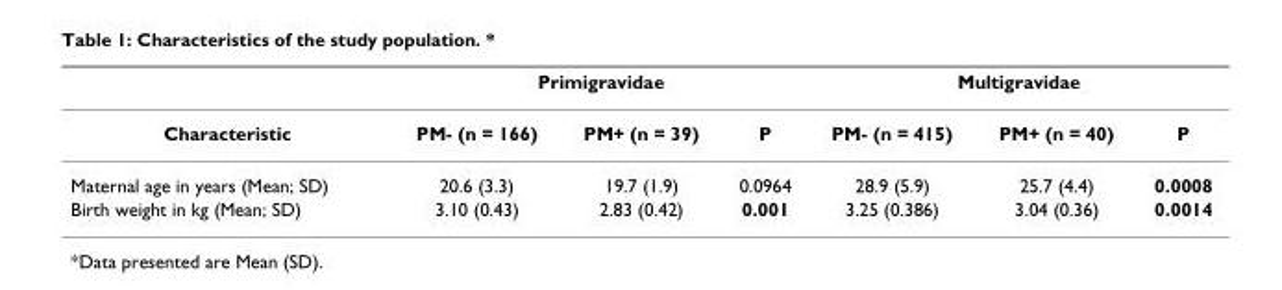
<table><thead><tr><td rowspan="2">Characteristic</td><td colspan="3">Primigravidae</td><td colspan="3">Multigravidae</td></tr><tr><td>PM- (n = 166)</td><td>PM+ (n = 39)</td><td>P</td><td>PM- (n = 415)</td><td>PM+ (n = 40)</td><td>P</td></tr></thead><tbody><tr><td>Maternal age in years (Mean; SD)</td><td>20.6 (3.3)</td><td>19.7 (1.9)</td><td>0.0964</td><td>28.9 (5.9)</td><td>25.7 (4.4)</td><td>0.0008</td></tr><tr><td>Birth weight in kg (Mean; SD)</td><td>3.10 (0.43)</td><td>2.83 (0.42)</td><td>0.001</td><td>3.25 (0.386)</td><td>3.04 (0.36)</td><td>0.0014</td></tr></tbody></table>